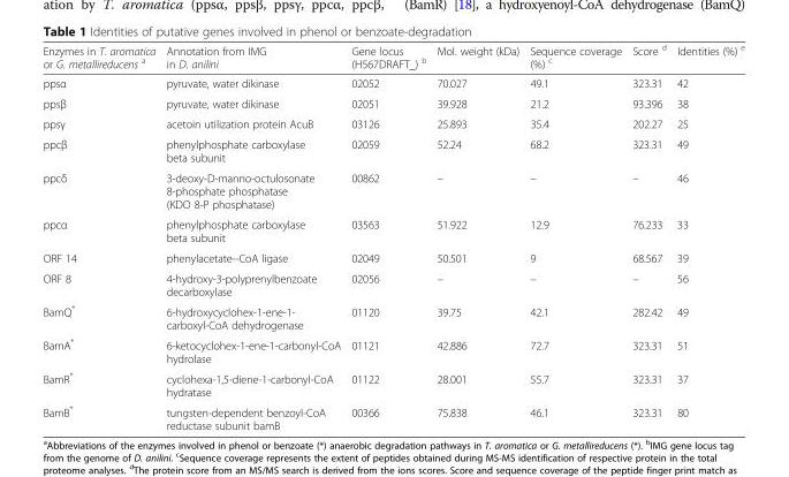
<table><thead><tr><td>Enzymes in T. aromatica or G. metallireducens <sup>a</sup></td><td>Annotation from IMG in D. anilini</td><td>Gene locus (H567DRAFT_) <sup>b</sup></td><td>Mol. weight (kDa)</td><td>Sequence coverage (%) <sup>c</sup></td><td>Score <sup>d</sup></td><td>Identities (%) <sup>e</sup></td></tr></thead><tbody><tr><td>ppsα</td><td>pyruvate, water dikinase</td><td>02052</td><td>70.027</td><td>49.1</td><td>323.31</td><td>42</td></tr><tr><td>ppsβ</td><td>pyruvate, water dikinase</td><td>02051</td><td>39.928</td><td>21.2</td><td>93.396</td><td>38</td></tr><tr><td>ppsγ</td><td>acetoin utilization protein AcuB</td><td>03126</td><td>25.893</td><td>35.4</td><td>202.27</td><td>25</td></tr><tr><td>ppcβ</td><td>phenylphosphate carboxylase beta subunit</td><td>02059</td><td>52.24</td><td>68.2</td><td>323.31</td><td>49</td></tr><tr><td>ppcδ</td><td>3-deoxy-D-manno-octulosonate 8-phosphate phosphatase (KDO 8-P phosphatase)</td><td>00862</td><td>–</td><td>–</td><td>–</td><td>46</td></tr><tr><td>ppcα</td><td>phenylphosphate carboxylase beta subunit</td><td>03563</td><td>51.922</td><td>12.9</td><td>76.233</td><td>33</td></tr><tr><td>ORF 14</td><td>phenylacetate--CoA ligase</td><td>02049</td><td>50.501</td><td>9</td><td>68.567</td><td>39</td></tr><tr><td>ORF 8</td><td>4-hydroxy-3-polyprenylbenzoate decarboxylase</td><td>02056</td><td>–</td><td>–</td><td>–</td><td>56</td></tr><tr><td>BamQ*</td><td>6-hydroxycyclohex-1-ene-1- carboxyl-CoA dehydrogenase</td><td>01120</td><td>39.75</td><td>42.1</td><td>282.42</td><td>49</td></tr><tr><td>BamA*</td><td>6-ketocyclohex-1-ene-1-carbonyl-CoA hydrolase</td><td>01121</td><td>42.886</td><td>72.7</td><td>323.31</td><td>51</td></tr><tr><td>BamR*</td><td>cyclohexa-1,5-diene-1-carbonyl-CoA hydratase</td><td>01122</td><td>28.001</td><td>55.7</td><td>323.31</td><td>37</td></tr><tr><td>BamB*</td><td>tungsten-dependent benzoyl-CoA reductase subunit bamB</td><td>00366</td><td>75.838</td><td>46.1</td><td>323.31</td><td>80</td></tr></tbody></table>